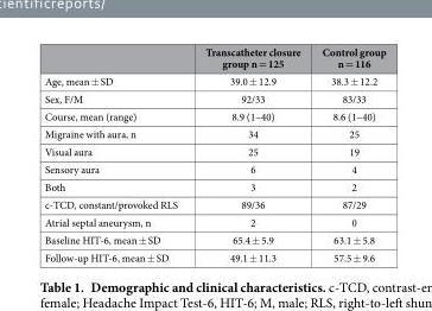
<table><thead><tr><td></td><td>Transcatheter closure group n = 125</td><td>Control group n = 116</td></tr></thead><tbody><tr><td>Age, mean ± SD</td><td>39.0 ± 12.9</td><td>38.3 ± 12.2</td></tr><tr><td>Sex, F/M</td><td>92/33</td><td>83/33</td></tr><tr><td>Course, mean (range)</td><td>8.9 (1–40)</td><td>8.6 (1–40)</td></tr><tr><td>Migraine with aura, n</td><td>34</td><td>25</td></tr><tr><td>Visual aura</td><td>25</td><td>19</td></tr><tr><td>Sensory aura</td><td>6</td><td>4</td></tr><tr><td>Both</td><td>3</td><td>2</td></tr><tr><td>c-TCD, constant/provoked RLS</td><td>89/36</td><td>87/29</td></tr><tr><td>Atrial septal aneurysm, n</td><td>2</td><td>0</td></tr><tr><td>Baseline HIT-6, mean ± SD</td><td>65.4 ± 5.9</td><td>63.1 ± 5.8</td></tr><tr><td>Follow-up HIT-6, mean ± SD</td><td>49.1 ± 11.3</td><td>57.5 ± 9.6</td></tr></tbody></table>